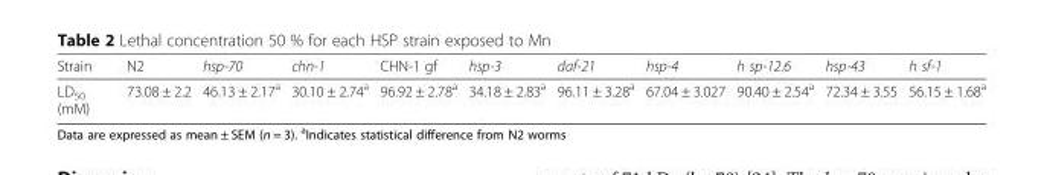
<table><thead><tr><td>Strain</td><td>N2</td><td>hsp-70</td><td>chn-1</td><td>CHN-1 gf</td><td>hsp-3</td><td>daf-21</td><td>hsp-4</td><td>h sp-12.6</td><td>hsp-43</td><td>h sf-1</td></tr></thead><tbody><tr><td>LD<sub>50</sub> (mM)</td><td>73.08 ± 2.2</td><td>46.13 ± 2.17<sup>a</sup></td><td>30.10 ± 2.74<sup>a</sup></td><td>96.92 ± 2.78<sup>a</sup></td><td>34.18 ± 2.83<sup>a</sup></td><td>96.11 ± 3.28<sup>a</sup></td><td>67.04 ± 3.027</td><td>90.40 ± 2.54<sup>a</sup></td><td>72.34 ± 3.55</td><td>56.15 ± 1.68<sup>a</sup></td></tr></tbody></table>